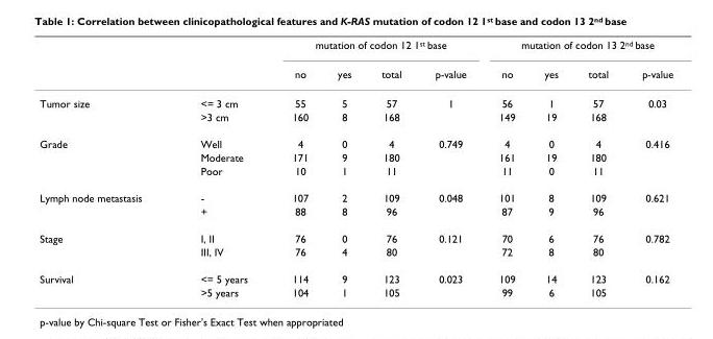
<table><thead><tr><td rowspan="2"></td><td rowspan="2"></td><td colspan="4">mutation of codon 12 1<sup>st</sup> base</td><td colspan="4">mutation of codon 13 2<sup>nd</sup> base</td></tr><tr><td>no</td><td>yes</td><td>total</td><td>p-value</td><td>no</td><td>yes</td><td>total</td><td>p-value</td></tr></thead><tbody><tr><td rowspan="2">Tumor size</td><td>&lt;= 3 cm</td><td>55</td><td>5</td><td>57</td><td>1</td><td>56</td><td>1</td><td>57</td><td>0.03</td></tr><tr><td>&gt;3 cm</td><td>160</td><td>8</td><td>168</td><td></td><td>149</td><td>19</td><td>168</td><td></td></tr><tr><td rowspan="3">Grade</td><td>Well</td><td>4</td><td>0</td><td>4</td><td>0.749</td><td>4</td><td>0</td><td>4</td><td>0.416</td></tr><tr><td>Moderate</td><td>171</td><td>9</td><td>180</td><td></td><td>161</td><td>19</td><td>180</td><td></td></tr><tr><td>Poor</td><td>10</td><td>1</td><td>11</td><td></td><td>11</td><td>0</td><td>11</td><td></td></tr><tr><td rowspan="2">Lymph node metastasis</td><td>-</td><td>107</td><td>2</td><td>109</td><td>0.048</td><td>101</td><td>8</td><td>109</td><td>0.621</td></tr><tr><td>+</td><td>88</td><td>8</td><td>96</td><td></td><td>87</td><td>9</td><td>96</td><td></td></tr><tr><td rowspan="2">Stage</td><td>I, II</td><td>76</td><td>0</td><td>76</td><td>0.121</td><td>70</td><td>6</td><td>76</td><td>0.782</td></tr><tr><td>III, IV</td><td>76</td><td>4</td><td>80</td><td></td><td>72</td><td>8</td><td>80</td><td></td></tr><tr><td rowspan="2">Survival</td><td>&lt;= 5 years</td><td>114</td><td>9</td><td>123</td><td>0.023</td><td>109</td><td>14</td><td>123</td><td>0.162</td></tr><tr><td>&gt;5 years</td><td>104</td><td>1</td><td>105</td><td></td><td>99</td><td>6</td><td>105</td><td></td></tr></tbody></table>